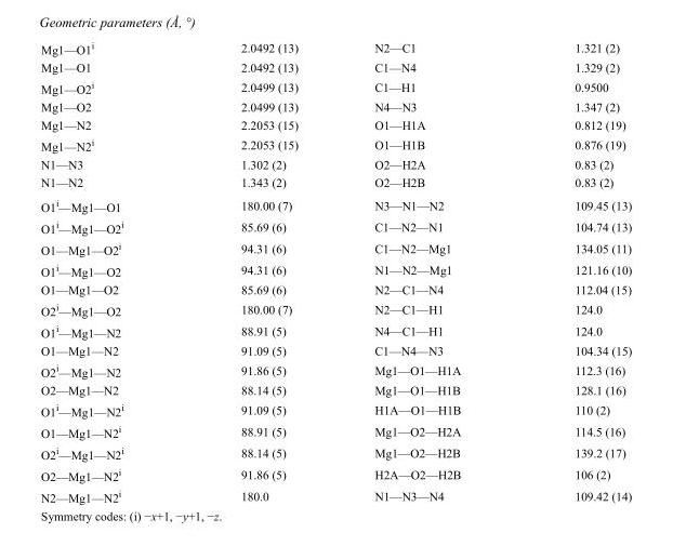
<table><tbody><tr><td>Mg1—O1<sup>i</sup></td><td>2.0492 (13)</td><td>N2—C1</td><td>1.321 (2)</td></tr><tr><td>Mg1—O1</td><td>2.0492 (13)</td><td>C1—N4</td><td>1.329 (2)</td></tr><tr><td>Mg1—O2<sup>i</sup></td><td>2.0499 (13)</td><td>C1—H1</td><td>0.9500</td></tr><tr><td>Mg1—O2</td><td>2.0499 (13)</td><td>N4—N3</td><td>1.347 (2)</td></tr><tr><td>Mg1—N2</td><td>2.2053 (15)</td><td>O1—H1A</td><td>0.812 (19)</td></tr><tr><td>Mg1—N2<sup>i</sup></td><td>2.2053 (15)</td><td>O1—H1B</td><td>0.876 (19)</td></tr><tr><td>N1—N3</td><td>1.302 (2)</td><td>O2—H2A</td><td>0.83 (2)</td></tr><tr><td>N1—N2</td><td>1.343 (2)</td><td>O2—H2B</td><td>0.83 (2)</td></tr><tr><td>O1<sup>i</sup>—Mg1—O1</td><td>180.00 (7)</td><td>N3—N1—N2</td><td>109.45 (13)</td></tr><tr><td>O1<sup>i</sup>—Mg1—O2<sup>i</sup></td><td>85.69 (6)</td><td>C1—N2—N1</td><td>104.74 (13)</td></tr><tr><td>O1—Mg1—O2<sup>i</sup></td><td>94.31 (6)</td><td>C1—N2—Mg1</td><td>134.05 (11)</td></tr><tr><td>O1<sup>i</sup>—Mg1—O2</td><td>94.31 (6)</td><td>N1—N2—Mg1</td><td>121.16 (10)</td></tr><tr><td>O1—Mg1—O2</td><td>85.69 (6)</td><td>N2—C1—N4</td><td>112.04 (15)</td></tr><tr><td>O2<sup>i</sup>—Mg1—O2</td><td>180.00 (7)</td><td>N2—C1—H1</td><td>124.0</td></tr><tr><td>O1<sup>i</sup>—Mg1—N2</td><td>88.91 (5)</td><td>N4—C1—H1</td><td>124.0</td></tr><tr><td>O1—Mg1—N2</td><td>91.09 (5)</td><td>C1—N4—N3</td><td>104.34 (15)</td></tr><tr><td>O2<sup>i</sup>—Mg1—N2</td><td>91.86 (5)</td><td>Mg1—O1—H1A</td><td>112.3 (16)</td></tr><tr><td>O2—Mg1—N2</td><td>88.14 (5)</td><td>Mg1—O1—H1B</td><td>128.1 (16)</td></tr><tr><td>O1<sup>i</sup>—Mg1—N2<sup>i</sup></td><td>91.09 (5)</td><td>H1A—O1—H1B</td><td>110 (2)</td></tr><tr><td>O1—Mg1—N2<sup>i</sup></td><td>88.91 (5)</td><td>Mg1—O2—H2A</td><td>114.5 (16)</td></tr><tr><td>O2<sup>i</sup>—Mg1—N2<sup>i</sup></td><td>88.14 (5)</td><td>Mg1—O2—H2B</td><td>139.2 (17)</td></tr><tr><td>O2—Mg1—N2<sup>i</sup></td><td>91.86 (5)</td><td>H2A—O2—H2B</td><td>106 (2)</td></tr><tr><td>N2—Mg1—N2<sup>i</sup></td><td>180.0</td><td>N1—N3—N4</td><td>109.42 (14)</td></tr></tbody></table>